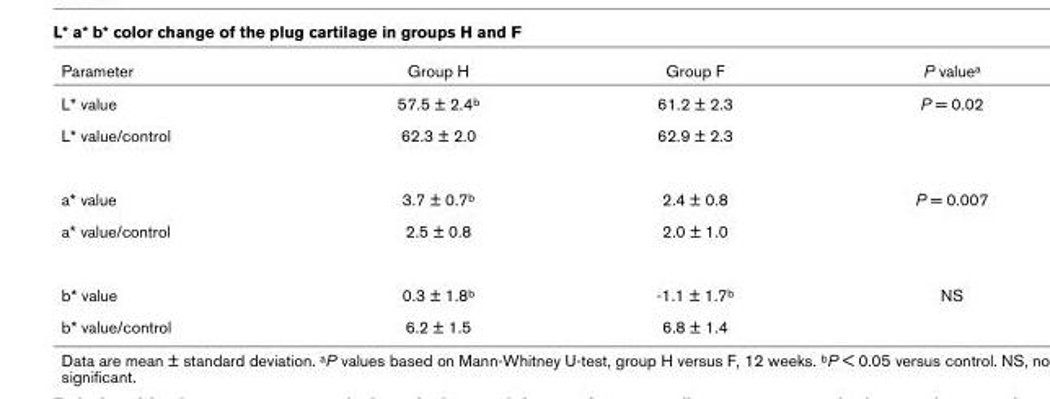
<table><thead><tr><td>Parameter</td><td>Group H</td><td>Group F</td><td>P value<sup>a</sup></td></tr></thead><tbody><tr><td>L* value</td><td>57.5 ± 2.4<sup>b</sup></td><td>61.2 ± 2.3</td><td>P = 0.02</td></tr><tr><td>L* value/control</td><td>62.3 ± 2.0</td><td>62.9 ± 2.3</td><td></td></tr><tr><td>a* value</td><td>3.7 ± 0.7<sup>b</sup></td><td>2.4 ± 0.8</td><td>P = 0.007</td></tr><tr><td>a* value/control</td><td>2.5 ± 0.8</td><td>2.0 ± 1.0</td><td></td></tr><tr><td>b* value</td><td>0.3 ± 1.8<sup>b</sup></td><td>-1.1 ± 1.7<sup>b</sup></td><td>NS</td></tr><tr><td>b* value/control</td><td>6.2 ± 1.5</td><td>6.8 ± 1.4</td><td></td></tr></tbody></table>